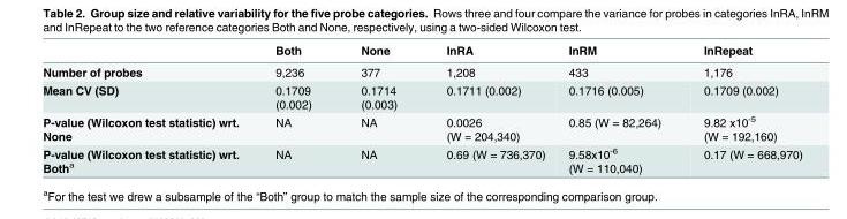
<table><thead><tr><td></td><td>Both</td><td>None</td><td>InRA</td><td>InRM</td><td>InRepeat</td></tr></thead><tbody><tr><td>Number of probes</td><td>9,236</td><td>377</td><td>1,208</td><td>433</td><td>1,176</td></tr><tr><td>Mean CV (SD)</td><td>0.1709 (0.002)</td><td>0.1714 (0.003)</td><td>0.1711 (0.002)</td><td>0.1716 (0.005)</td><td>0.1709 (0.002)</td></tr><tr><td>P-value (Wilcoxon test statistic) wrt. None</td><td>NA</td><td>NA</td><td>0.0026 (W = 204,340)</td><td>0.85 (W = 82,264)</td><td>9.82 x10<sup>-5</sup> (W = 192,160)</td></tr><tr><td>P-value (Wilcoxon test statistic) wrt. Both<sup>a</sup></td><td>NA</td><td>NA</td><td>0.69 (W = 736,370)</td><td>9.58x10<sup>-6</sup> (W = 110,040)</td><td>0.17 (W = 668,970)</td></tr></tbody></table>